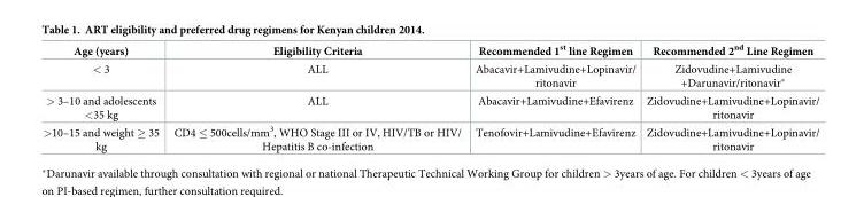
<table><thead><tr><td>Age (years)</td><td>Eligibility Criteria</td><td>Recommended 1<sup>st</sup> line Regimen</td><td>Recommended 2<sup>nd</sup> Line Regimen</td></tr></thead><tbody><tr><td>&lt; 3</td><td>ALL</td><td>Abacavir+Lamivudine+Lopinavir/ ritonavir</td><td>Zidovudine+Lamivudine +Darunavir/ritonavir*</td></tr><tr><td>&gt; 3–10 and adolescents &lt;35 kg</td><td>ALL</td><td>Abacavir+Lamivudine+Efavirenz</td><td>Zidovudine+Lamivudine+Lopinavir/ ritonavir</td></tr><tr><td>&gt;10–15 and weight ≥ 35 kg</td><td>CD4 ≤ 500cells/mm<sup>3</sup>, WHO Stage III or IV, HIV/TB or HIV/ Hepatitis B co-infection</td><td>Tenofovir+Lamivudine+Efavirenz</td><td>Zidovudine+Lamivudine+Lopinavir/ ritonavir</td></tr></tbody></table>